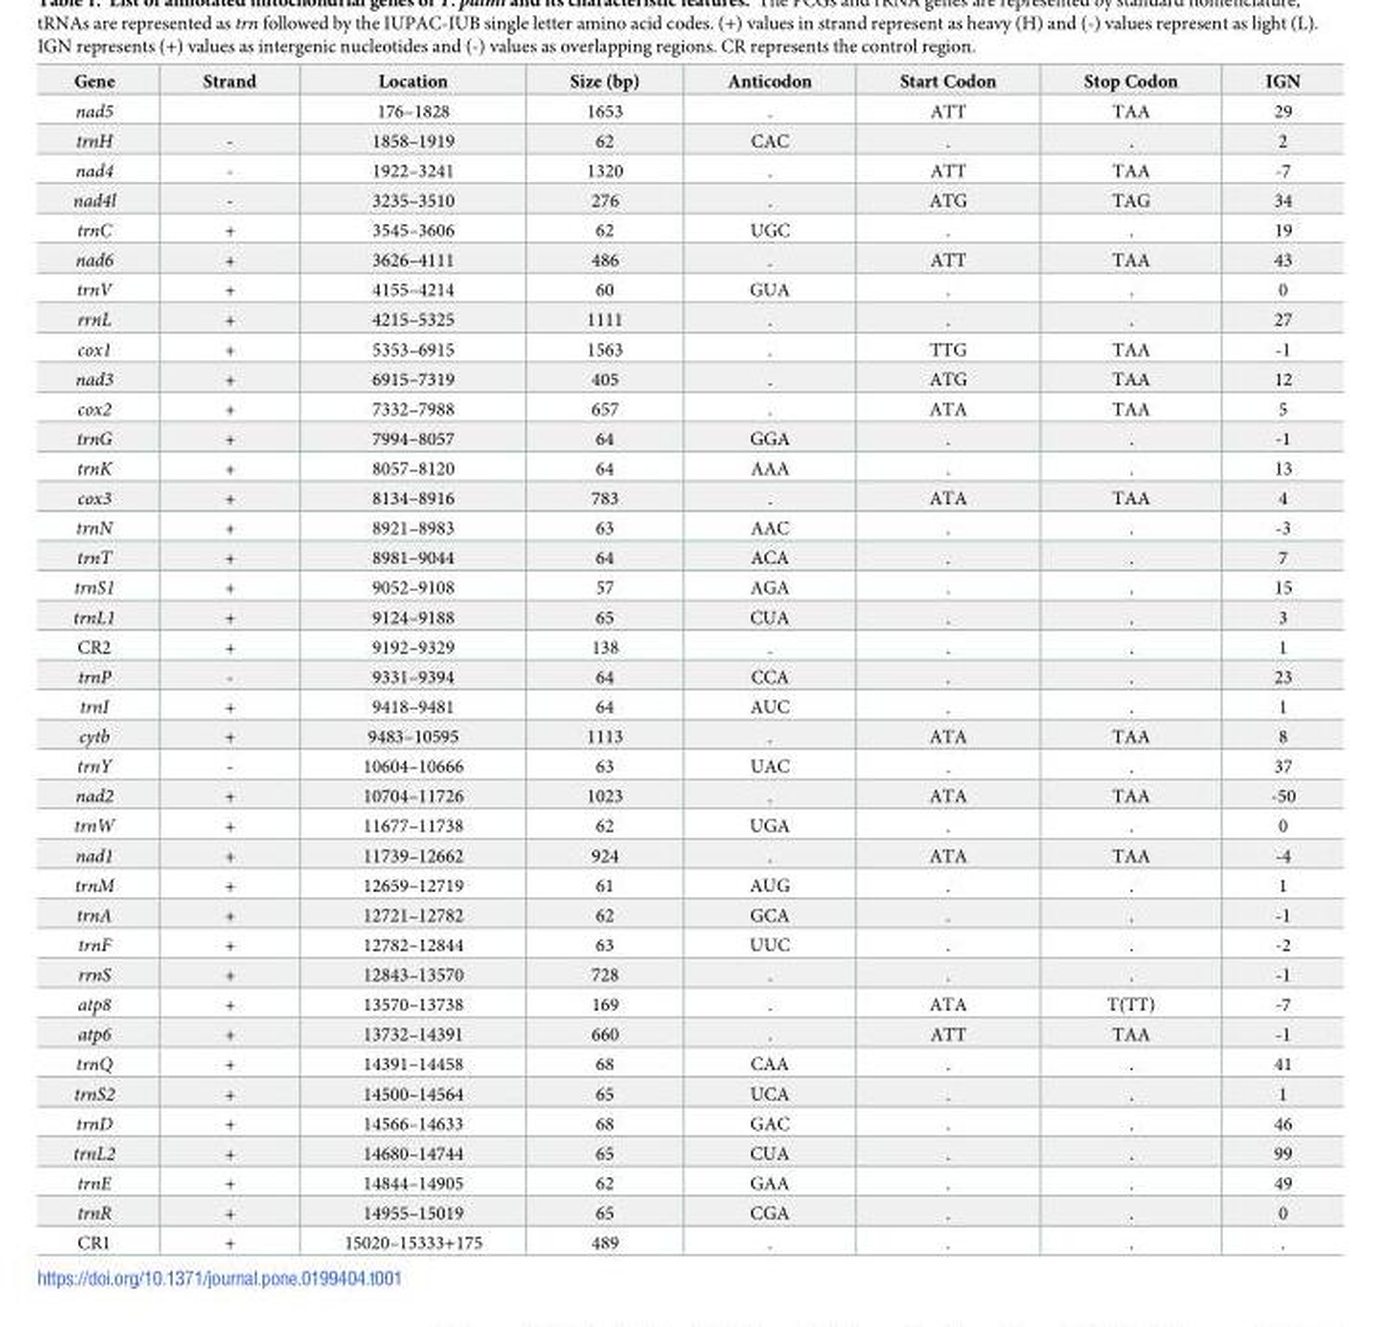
<table><thead><tr><td>Gene</td><td>Strand</td><td>Location</td><td>Size (bp)</td><td>Anticodon</td><td>Start Codon</td><td>Stop Codon</td><td>IGN</td></tr></thead><tbody><tr><td>nad5</td><td></td><td>176–1828</td><td>1653</td><td>.</td><td>ATT</td><td>TAA</td><td>29</td></tr><tr><td>trnH</td><td>-</td><td>1858–1919</td><td>62</td><td>CAC</td><td>.</td><td>.</td><td>2</td></tr><tr><td>nad4</td><td>-</td><td>1922–3241</td><td>1320</td><td>.</td><td>ATT</td><td>TAA</td><td>-7</td></tr><tr><td>nad4l</td><td>-</td><td>3235–3510</td><td>276</td><td>.</td><td>ATG</td><td>TAG</td><td>34</td></tr><tr><td>trnC</td><td>+</td><td>3545–3606</td><td>62</td><td>UGC</td><td>.</td><td>.</td><td>19</td></tr><tr><td>nad6</td><td>+</td><td>3626–4111</td><td>486</td><td>.</td><td>ATT</td><td>TAA</td><td>43</td></tr><tr><td>trnV</td><td>+</td><td>4155–4214</td><td>60</td><td>GUA</td><td>.</td><td>.</td><td>0</td></tr><tr><td>rrnL</td><td>+</td><td>4215–5325</td><td>1111</td><td>.</td><td>.</td><td>.</td><td>27</td></tr><tr><td>cox1</td><td>+</td><td>5353–6915</td><td>1563</td><td>.</td><td>TTG</td><td>TAA</td><td>-1</td></tr><tr><td>nad3</td><td>+</td><td>6915–7319</td><td>405</td><td>.</td><td>ATG</td><td>TAA</td><td>12</td></tr><tr><td>cox2</td><td>+</td><td>7332–7988</td><td>657</td><td>.</td><td>ATA</td><td>TAA</td><td>5</td></tr><tr><td>trnG</td><td>+</td><td>7994–8057</td><td>64</td><td>GGA</td><td>.</td><td>.</td><td>-1</td></tr><tr><td>trnK</td><td>+</td><td>8057–8120</td><td>64</td><td>AAA</td><td>.</td><td>.</td><td>13</td></tr><tr><td>cox3</td><td>+</td><td>8134–8916</td><td>783</td><td>.</td><td>ATA</td><td>TAA</td><td>4</td></tr><tr><td>trnN</td><td>+</td><td>8921–8983</td><td>63</td><td>AAC</td><td>.</td><td>.</td><td>-3</td></tr><tr><td>trnT</td><td>+</td><td>8981–9044</td><td>64</td><td>ACA</td><td>.</td><td>.</td><td>7</td></tr><tr><td>trnS1</td><td>+</td><td>9052–9108</td><td>57</td><td>AGA</td><td>.</td><td>.</td><td>15</td></tr><tr><td>trnL1</td><td>+</td><td>9124–9188</td><td>65</td><td>CUA</td><td>.</td><td>.</td><td>3</td></tr><tr><td>CR2</td><td>+</td><td>9192–9329</td><td>138</td><td>.</td><td>.</td><td>.</td><td>1</td></tr><tr><td>trnP</td><td>-</td><td>9331–9394</td><td>64</td><td>CCA</td><td>.</td><td>.</td><td>23</td></tr><tr><td>trnI</td><td>+</td><td>9418–9481</td><td>64</td><td>AUC</td><td>.</td><td>.</td><td>1</td></tr><tr><td>cytb</td><td>+</td><td>9483–10595</td><td>1113</td><td>.</td><td>ATA</td><td>TAA</td><td>8</td></tr><tr><td>trnY</td><td>-</td><td>10604–10666</td><td>63</td><td>UAC</td><td>.</td><td>.</td><td>37</td></tr><tr><td>nad2</td><td>+</td><td>10704–11726</td><td>1023</td><td>.</td><td>ATA</td><td>TAA</td><td>-50</td></tr><tr><td>trnW</td><td>+</td><td>11677–11738</td><td>62</td><td>UGA</td><td>.</td><td>.</td><td>0</td></tr><tr><td>nad1</td><td>+</td><td>11739–12662</td><td>924</td><td>.</td><td>ATA</td><td>TAA</td><td>-4</td></tr><tr><td>trnM</td><td>+</td><td>12659–12719</td><td>61</td><td>AUG</td><td>.</td><td>.</td><td>1</td></tr><tr><td>trnA</td><td>+</td><td>12721–12782</td><td>62</td><td>GCA</td><td>.</td><td>.</td><td>-1</td></tr><tr><td>trnF</td><td>+</td><td>12782–12844</td><td>63</td><td>UUC</td><td>.</td><td>.</td><td>-2</td></tr><tr><td>rrnS</td><td>+</td><td>12843–13570</td><td>728</td><td>.</td><td>.</td><td>.</td><td>-1</td></tr><tr><td>atp8</td><td>+</td><td>13570–13738</td><td>169</td><td>.</td><td>ATA</td><td>T(TT)</td><td>-7</td></tr><tr><td>atp6</td><td>+</td><td>13732–14391</td><td>660</td><td>.</td><td>ATT</td><td>TAA</td><td>-1</td></tr><tr><td>trnQ</td><td>+</td><td>14391–14458</td><td>68</td><td>CAA</td><td>.</td><td>.</td><td>41</td></tr><tr><td>trnS2</td><td>+</td><td>14500–14564</td><td>65</td><td>UCA</td><td>.</td><td>.</td><td>1</td></tr><tr><td>trnD</td><td>+</td><td>14566–14633</td><td>68</td><td>GAC</td><td>.</td><td>.</td><td>46</td></tr><tr><td>trnL2</td><td>+</td><td>14680–14744</td><td>65</td><td>CUA</td><td>.</td><td>.</td><td>99</td></tr><tr><td>trnE</td><td>+</td><td>14844–14905</td><td>62</td><td>GAA</td><td>.</td><td>.</td><td>49</td></tr><tr><td>trnR</td><td>+</td><td>14955–15019</td><td>65</td><td>CGA</td><td>.</td><td>.</td><td>0</td></tr><tr><td>CR1</td><td>+</td><td>15020–15333+175</td><td>489</td><td>.</td><td>.</td><td>.</td><td>.</td></tr></tbody></table>